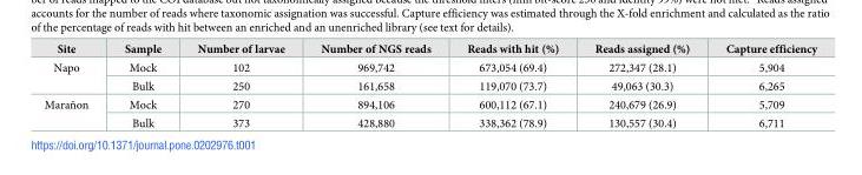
<table><thead><tr><td>Site</td><td>Sample</td><td>Number of larvae</td><td>Number of NGS reads</td><td>Reads with hit (%)</td><td>Reads assigned (%)</td><td>Capture efficiency</td></tr></thead><tbody><tr><td rowspan="2">Napo</td><td>Mock</td><td>102</td><td>969,742</td><td>673,054 (69.4)</td><td>272,347 (28.1)</td><td>5,904</td></tr><tr><td>Bulk</td><td>250</td><td>161,658</td><td>119,070 (73.7)</td><td>49,063 (30.3)</td><td>6,265</td></tr><tr><td rowspan="2">Marañon</td><td>Mock</td><td>270</td><td>894,106</td><td>600,112 (67.1)</td><td>240,679 (26.9)</td><td>5,709</td></tr><tr><td>Bulk</td><td>373</td><td>428,880</td><td>338,362 (78.9)</td><td>130,557 (30.4)</td><td>6,711</td></tr></tbody></table>